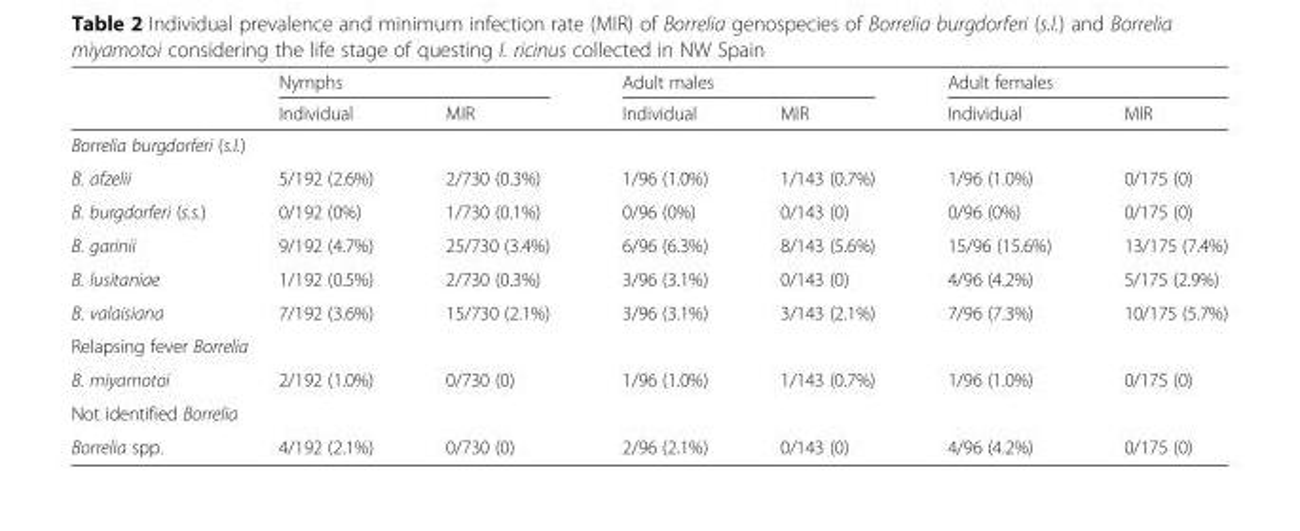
<table><thead><tr><td rowspan="2"></td><td colspan="2">Nymphs</td><td colspan="2">Adult males</td><td colspan="2">Adult females</td></tr><tr><td>Individual</td><td>MIR</td><td>Individual</td><td>MIR</td><td>Individual</td><td>MIR</td></tr></thead><tbody><tr><td colspan="7">Borrelia burgdorferi (s.l.)</td></tr><tr><td>B. afzelii</td><td>5/192 (2.6%)</td><td>2/730 (0.3%)</td><td>1/96 (1.0%)</td><td>1/143 (0.7%)</td><td>1/96 (1.0%)</td><td>0/175 (0)</td></tr><tr><td>B. burgdorferi (s.s.)</td><td>0/192 (0%)</td><td>1/730 (0.1%)</td><td>0/96 (0%)</td><td>0/143 (0)</td><td>0/96 (0%)</td><td>0/175 (0)</td></tr><tr><td>B. garinii</td><td>9/192 (4.7%)</td><td>25/730 (3.4%)</td><td>6/96 (6.3%)</td><td>8/143 (5.6%)</td><td>15/96 (15.6%)</td><td>13/175 (7.4%)</td></tr><tr><td>B. lusitaniae</td><td>1/192 (0.5%)</td><td>2/730 (0.3%)</td><td>3/96 (3.1%)</td><td>0/143 (0)</td><td>4/96 (4.2%)</td><td>5/175 (2.9%)</td></tr><tr><td>B. valaisiana</td><td>7/192 (3.6%)</td><td>15/730 (2.1%)</td><td>3/96 (3.1%)</td><td>3/143 (2.1%)</td><td>7/96 (7.3%)</td><td>10/175 (5.7%)</td></tr><tr><td colspan="7">Relapsing fever Borrelia</td></tr><tr><td>B. miyamotoi</td><td>2/192 (1.0%)</td><td>0/730 (0)</td><td>1/96 (1.0%)</td><td>1/143 (0.7%)</td><td>1/96 (1.0%)</td><td>0/175 (0)</td></tr><tr><td colspan="7">Not identified Borrelia</td></tr><tr><td>Borrelia spp.</td><td>4/192 (2.1%)</td><td>0/730 (0)</td><td>2/96 (2.1%)</td><td>0/143 (0)</td><td>4/96 (4.2%)</td><td>0/175 (0)</td></tr></tbody></table>